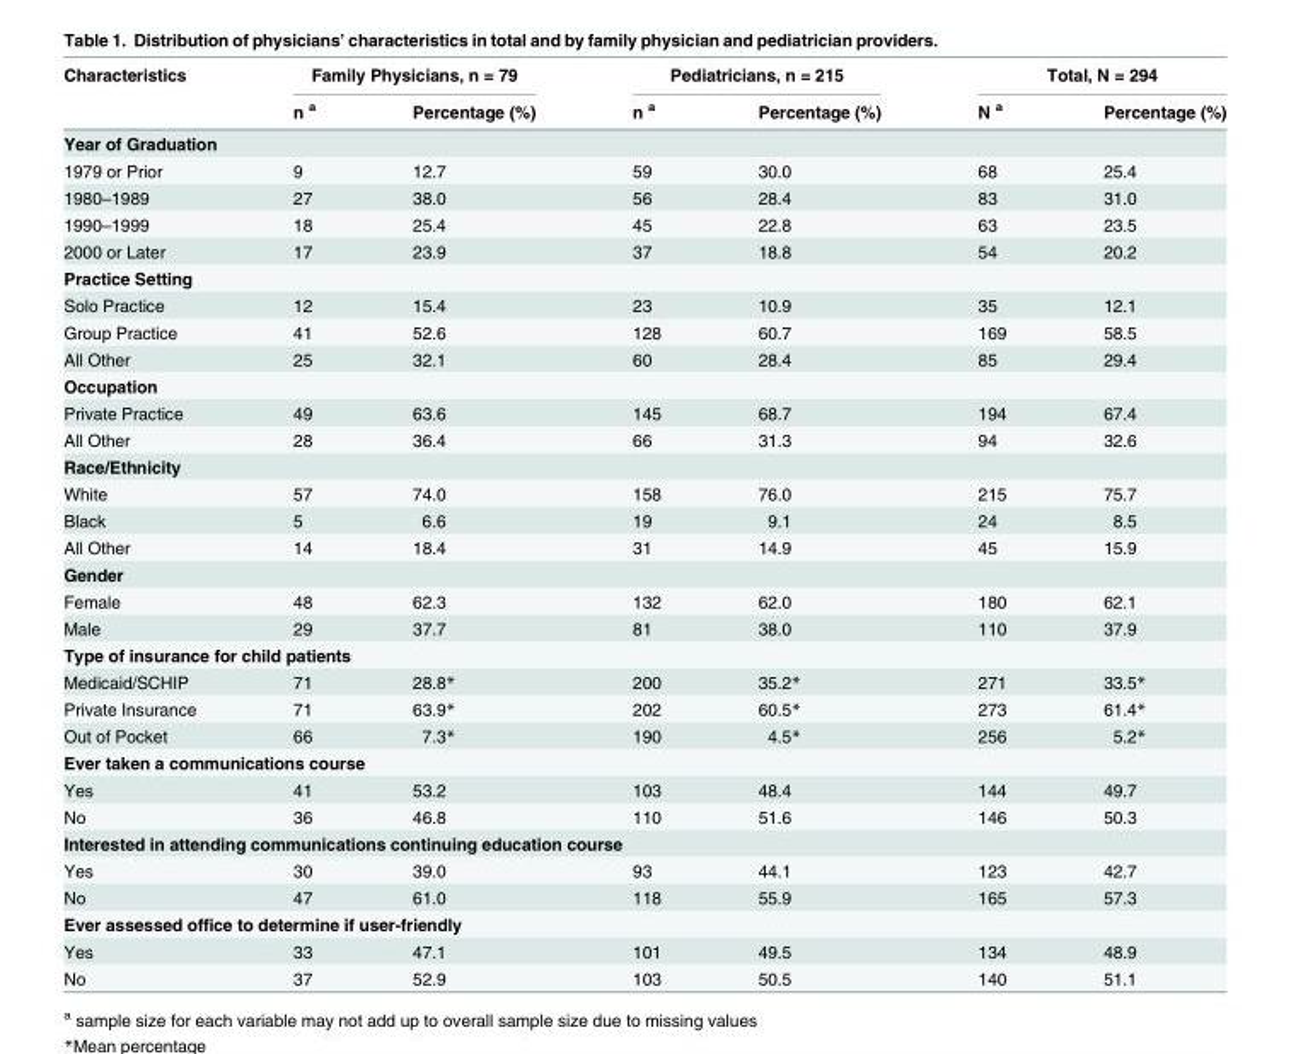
<table><thead><tr><td rowspan="2">Characteristics</td><td colspan="2">Family Physicians, n = 79</td><td colspan="2">Pediatricians, n = 215</td><td colspan="2">Total, N = 294</td></tr><tr><td>n <sup>a</sup></td><td>Percentage (%)</td><td>n <sup>a</sup></td><td>Percentage (%)</td><td>N <sup>a</sup></td><td>Percentage (%)</td></tr></thead><tbody><tr><td colspan="7">Year of Graduation</td></tr><tr><td>1979 or Prior</td><td>9</td><td>12.7</td><td>59</td><td>30.0</td><td>68</td><td>25.4</td></tr><tr><td>1980–1989</td><td>27</td><td>38.0</td><td>56</td><td>28.4</td><td>83</td><td>31.0</td></tr><tr><td>1990–1999</td><td>18</td><td>25.4</td><td>45</td><td>22.8</td><td>63</td><td>23.5</td></tr><tr><td>2000 or Later</td><td>17</td><td>23.9</td><td>37</td><td>18.8</td><td>54</td><td>20.2</td></tr><tr><td colspan="7">Practice Setting</td></tr><tr><td>Solo Practice</td><td>12</td><td>15.4</td><td>23</td><td>10.9</td><td>35</td><td>12.1</td></tr><tr><td>Group Practice</td><td>41</td><td>52.6</td><td>128</td><td>60.7</td><td>169</td><td>58.5</td></tr><tr><td>All Other</td><td>25</td><td>32.1</td><td>60</td><td>28.4</td><td>85</td><td>29.4</td></tr><tr><td colspan="7">Occupation</td></tr><tr><td>Private Practice</td><td>49</td><td>63.6</td><td>145</td><td>68.7</td><td>194</td><td>67.4</td></tr><tr><td>All Other</td><td>28</td><td>36.4</td><td>66</td><td>31.3</td><td>94</td><td>32.6</td></tr><tr><td colspan="7">Race/Ethnicity</td></tr><tr><td>White</td><td>57</td><td>74.0</td><td>158</td><td>76.0</td><td>215</td><td>75.7</td></tr><tr><td>Black</td><td>5</td><td>6.6</td><td>19</td><td>9.1</td><td>24</td><td>8.5</td></tr><tr><td>All Other</td><td>14</td><td>18.4</td><td>31</td><td>14.9</td><td>45</td><td>15.9</td></tr><tr><td colspan="7">Gender</td></tr><tr><td>Female</td><td>48</td><td>62.3</td><td>132</td><td>62.0</td><td>180</td><td>62.1</td></tr><tr><td>Male</td><td>29</td><td>37.7</td><td>81</td><td>38.0</td><td>110</td><td>37.9</td></tr><tr><td colspan="7">Type of insurance for child patients</td></tr><tr><td>Medicaid/SCHIP</td><td>71</td><td>28.8*</td><td>200</td><td>35.2*</td><td>271</td><td>33.5*</td></tr><tr><td>Private Insurance</td><td>71</td><td>63.9*</td><td>202</td><td>60.5*</td><td>273</td><td>61.4*</td></tr><tr><td>Out of Pocket</td><td>66</td><td>7.3*</td><td>190</td><td>4.5*</td><td>256</td><td>5.2*</td></tr><tr><td colspan="7">Ever taken a communications course</td></tr><tr><td>Yes</td><td>41</td><td>53.2</td><td>103</td><td>48.4</td><td>144</td><td>49.7</td></tr><tr><td>No</td><td>36</td><td>46.8</td><td>110</td><td>51.6</td><td>146</td><td>50.3</td></tr><tr><td colspan="7">Interested in attending communications continuing education course</td></tr><tr><td>Yes</td><td>30</td><td>39.0</td><td>93</td><td>44.1</td><td>123</td><td>42.7</td></tr><tr><td>No</td><td>47</td><td>61.0</td><td>118</td><td>55.9</td><td>165</td><td>57.3</td></tr><tr><td colspan="7">Ever assessed office to determine if user-friendly</td></tr><tr><td>Yes</td><td>33</td><td>47.1</td><td>101</td><td>49.5</td><td>134</td><td>48.9</td></tr><tr><td>No</td><td>37</td><td>52.9</td><td>103</td><td>50.5</td><td>140</td><td>51.1</td></tr></tbody></table>